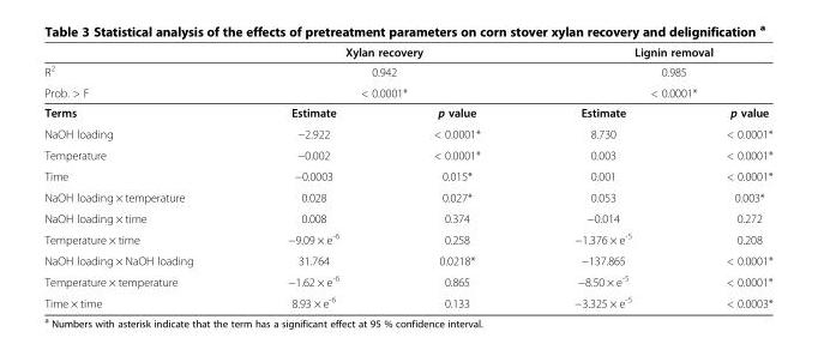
<table><thead><tr><td rowspan="4">R<sup>2</sup> Prob. &gt; F Terms</td><td rowspan="3" colspan="2">Xylan recovery 0.942 &lt; 0.0001*</td><td rowspan="3" colspan="2">Lignin removal 0.985 &lt; 0.0001*</td></tr><tr></tr><tr></tr><tr><td>Estimate</td><td>p value</td><td>Estimate</td><td>p value</td></tr></thead><tbody><tr><td>NaOH loading</td><td>−2.922</td><td>&lt; 0.0001*</td><td>8.730</td><td>&lt; 0.0001*</td></tr><tr><td>Temperature</td><td>−0.002</td><td>&lt; 0.0001*</td><td>0.003</td><td>&lt; 0.0001*</td></tr><tr><td>Time</td><td>−0.0003</td><td>0.015*</td><td>0.001</td><td>&lt; 0.0001*</td></tr><tr><td>NaOH loading × temperature</td><td>0.028</td><td>0.027*</td><td>0.053</td><td>0.003*</td></tr><tr><td>NaOH loading × time</td><td>0.008</td><td>0.374</td><td>−0.014</td><td>0.272</td></tr><tr><td>Temperature × time</td><td>−9.09 × e<sup>-6</sup></td><td>0.258</td><td>−1.376 × e<sup>-5</sup></td><td>0.208</td></tr><tr><td>NaOH loading × NaOH loading</td><td>31.764</td><td>0.0218*</td><td>−137.865</td><td>&lt; 0.0001*</td></tr><tr><td>Temperature × temperature</td><td>−1.62 × e<sup>-6</sup></td><td>0.865</td><td>−8.50 × e<sup>-5</sup></td><td>&lt; 0.0001*</td></tr><tr><td>Time × time</td><td>8.93 × e<sup>-6</sup></td><td>0.133</td><td>−3.325 × e<sup>-5</sup></td><td>&lt; 0.0003*</td></tr></tbody></table>